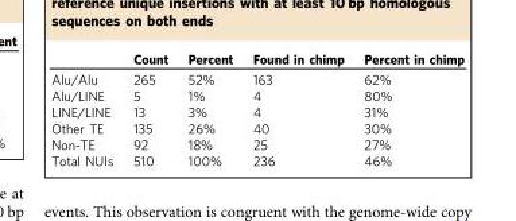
<table><thead><tr><td></td><td>Count</td><td>Percent</td><td>Found in chimp</td><td>Percent in chimp</td></tr></thead><tbody><tr><td>Alu/Alu</td><td>265</td><td>52%</td><td>163</td><td>62%</td></tr><tr><td>Alu/LINE</td><td>5</td><td>1%</td><td>4</td><td>80%</td></tr><tr><td>LINE/LINE</td><td>13</td><td>3%</td><td>4</td><td>31%</td></tr><tr><td>Other TE</td><td>135</td><td>26%</td><td>40</td><td>30%</td></tr><tr><td>Non-TE</td><td>92</td><td>18%</td><td>25</td><td>27%</td></tr><tr><td>Total NUIs</td><td>510</td><td>100%</td><td>236</td><td>46%</td></tr></tbody></table>